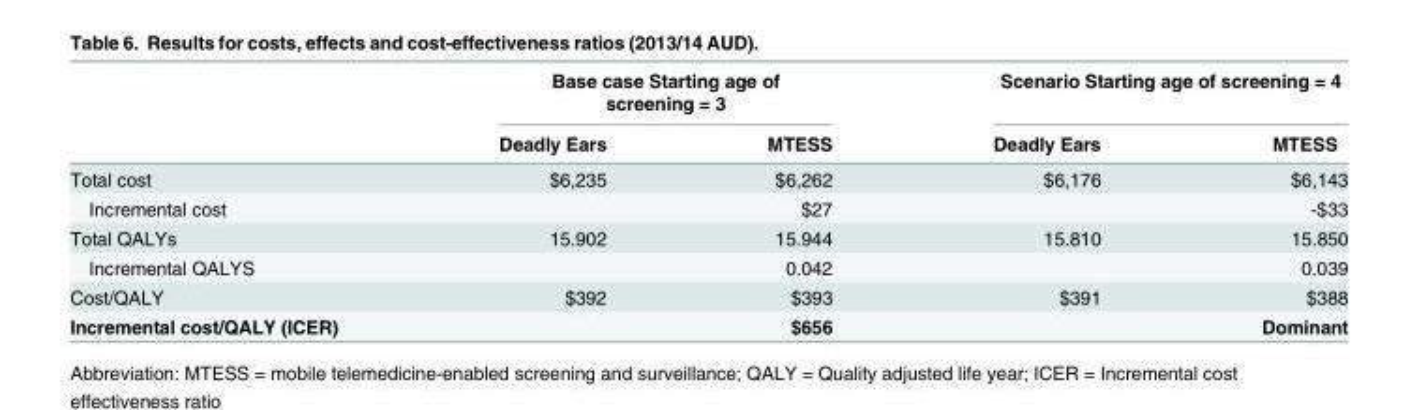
<table><thead><tr><td rowspan="2"></td><td colspan="2">Base case Starting age of screening = 3</td><td colspan="2">Scenario Starting age of screening = 4</td></tr><tr><td>Deadly Ears</td><td>MTESS</td><td>Deadly Ears</td><td>MTESS</td></tr></thead><tbody><tr><td>Total cost</td><td>$6,235</td><td>$6,262</td><td>$6,176</td><td>$6,143</td></tr><tr><td>Incremental cost</td><td></td><td>$27</td><td></td><td>-$33</td></tr><tr><td>Total QALYs</td><td>15.902</td><td>15.944</td><td>15.810</td><td>15.850</td></tr><tr><td>Incremental QALYS</td><td></td><td>0.042</td><td></td><td>0.039</td></tr><tr><td>Cost/QALY</td><td>$392</td><td>$393</td><td>$391</td><td>$388</td></tr><tr><td>Incremental cost/QALY (ICER)</td><td></td><td>$656</td><td></td><td>Dominant</td></tr></tbody></table>